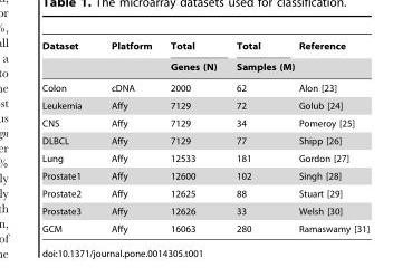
<table><thead><tr><td rowspan="2">Dataset</td><td rowspan="2">Platform</td><td rowspan="2">Total Genes (N)</td><td rowspan="2">Total Samples (M)</td><td rowspan="2">Reference</td></tr><tr></tr></thead><tbody><tr><td>Colon</td><td>cDNA</td><td>2000</td><td>62</td><td>Alon [23]</td></tr><tr><td>Leukemia</td><td>Affy</td><td>7129</td><td>72</td><td>Golub [24]</td></tr><tr><td>CNS</td><td>Affy</td><td>7129</td><td>34</td><td>Pomeroy [25]</td></tr><tr><td>DLBCL</td><td>Affy</td><td>7129</td><td>77</td><td>Shipp [26]</td></tr><tr><td>Lung</td><td>Affy</td><td>12533</td><td>181</td><td>Gordon [27]</td></tr><tr><td>Prostate1</td><td>Affy</td><td>12600</td><td>102</td><td>Singh [28]</td></tr><tr><td>Prostate2</td><td>Affy</td><td>12625</td><td>88</td><td>Stuart [29]</td></tr><tr><td>Prostate3</td><td>Affy</td><td>12626</td><td>33</td><td>Welsh [30]</td></tr><tr><td>GCM</td><td>Affy</td><td>16063</td><td>280</td><td>Ramaswamy [31]</td></tr></tbody></table>